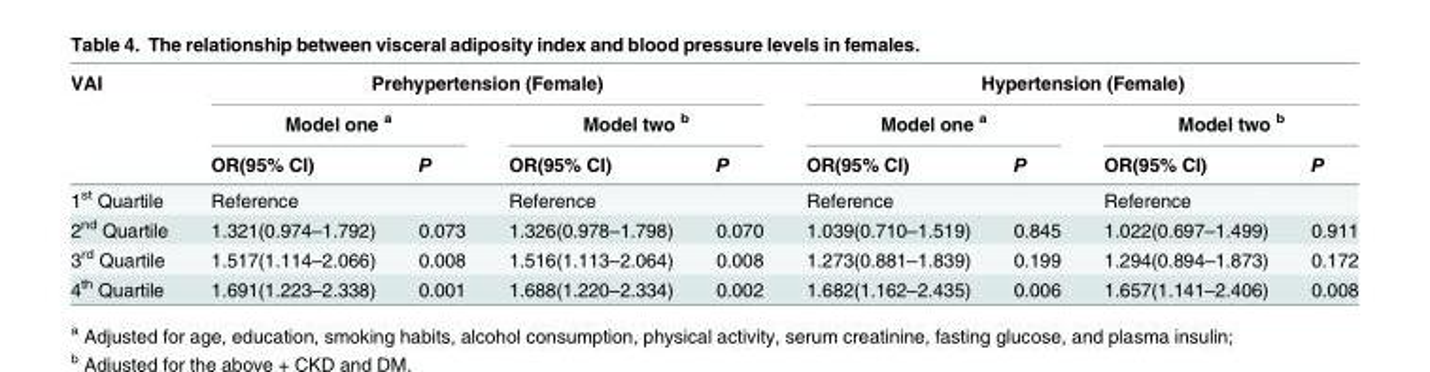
<table><thead><tr><td rowspan="3">VAI</td><td colspan="4">Prehypertension (Female)</td><td colspan="4">Hypertension (Female)</td></tr><tr><td colspan="2">Model one <sup>a</sup></td><td colspan="2">Model two <sup>b</sup></td><td colspan="2">Model one <sup>a</sup></td><td colspan="2">Model two <sup>b</sup></td></tr><tr><td>OR(95% CI)</td><td>P</td><td>OR(95% CI)</td><td>P</td><td>OR(95% CI)</td><td>P</td><td>OR(95% CI)</td><td>P</td></tr></thead><tbody><tr><td>1<sup>st</sup> Quartile</td><td>Reference</td><td></td><td>Reference</td><td></td><td>Reference</td><td></td><td>Reference</td><td></td></tr><tr><td>2<sup>nd</sup> Quartile</td><td>1.321(0.974–1.792)</td><td>0.073</td><td>1.326(0.978–1.798)</td><td>0.070</td><td>1.039(0.710–1.519)</td><td>0.845</td><td>1.022(0.697–1.499)</td><td>0.911</td></tr><tr><td>3<sup>rd</sup> Quartile</td><td>1.517(1.114–2.066)</td><td>0.008</td><td>1.516(1.113–2.064)</td><td>0.008</td><td>1.273(0.881–1.839)</td><td>0.199</td><td>1.294(0.894–1.873)</td><td>0.172</td></tr><tr><td>4<sup>th</sup> Quartile</td><td>1.691(1.223–2.338)</td><td>0.001</td><td>1.688(1.220–2.334)</td><td>0.002</td><td>1.682(1.162–2.435)</td><td>0.006</td><td>1.657(1.141–2.406)</td><td>0.008</td></tr></tbody></table>